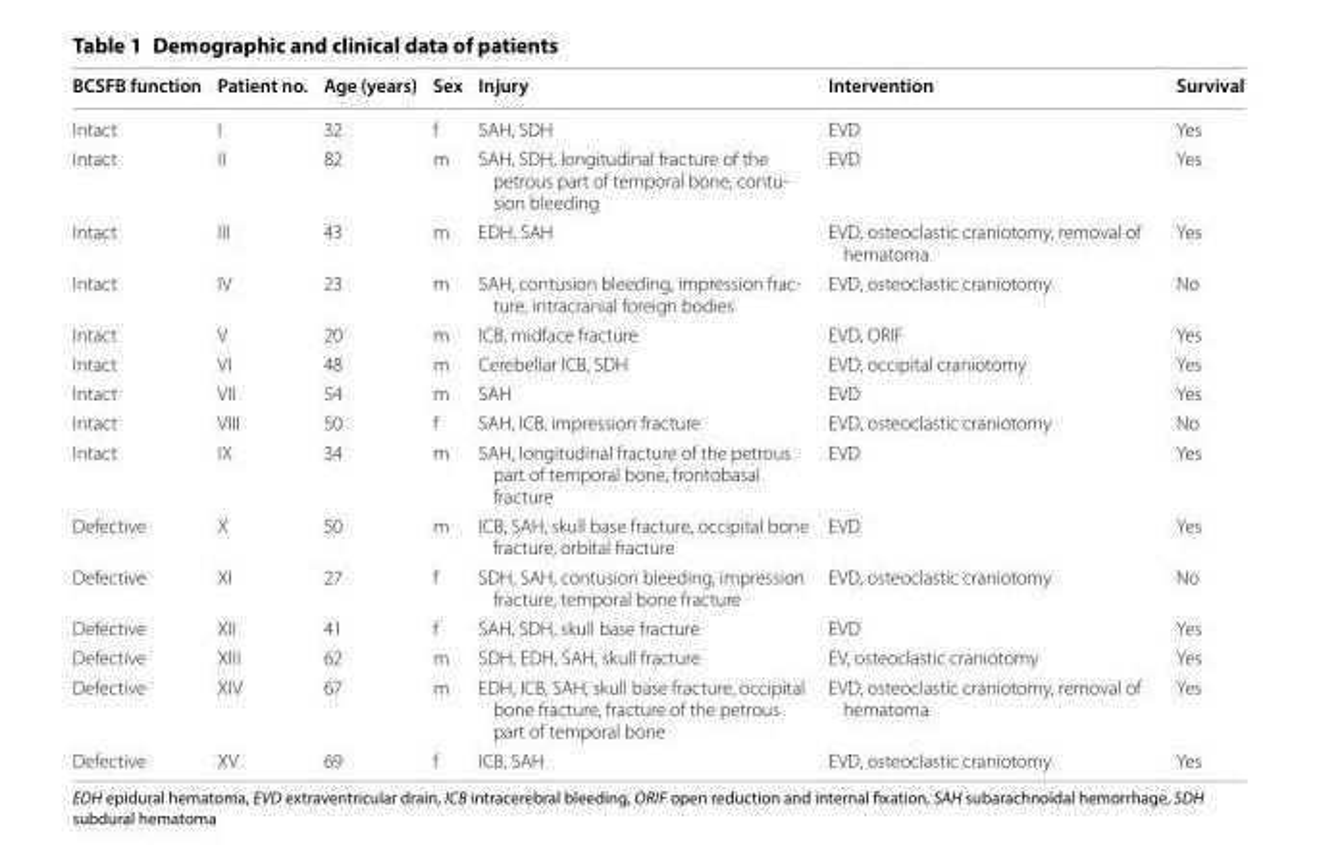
<table><thead><tr><td>BCSFB function</td><td>Patient no.</td><td>Age (years)</td><td>Sex</td><td>Injury</td><td>Intervention</td><td>Survival</td></tr></thead><tbody><tr><td>Intact</td><td>I</td><td>32</td><td>f</td><td>SAH, SDH</td><td>EVD</td><td>Yes</td></tr><tr><td>Intact</td><td>II</td><td>82</td><td>m</td><td>SAH, SDH, longitudinal fracture of the petrous part of temporal bone, contu- sion bleeding</td><td>EVD</td><td>Yes</td></tr><tr><td>Intact</td><td>III</td><td>43</td><td>m</td><td>EDH, SAH</td><td>EVD, osteoclastic craniotomy, removal of hematoma</td><td>Yes</td></tr><tr><td>Intact</td><td>IV</td><td>23</td><td>m</td><td>SAH, contusion bleeding, impression frac- ture, intracranial foreign bodies</td><td>EVD, osteoclastic craniotomy</td><td>No</td></tr><tr><td>Intact</td><td>V</td><td>20</td><td>m</td><td>ICB, midface fracture</td><td>EVD, ORIF</td><td>Yes</td></tr><tr><td>Intact</td><td>VI</td><td>48</td><td>m</td><td>Cerebellar ICB, SDH</td><td>EVD, occipital craniotomy</td><td>Yes</td></tr><tr><td>Intact</td><td>VII</td><td>54</td><td>m</td><td>SAH</td><td>EVD</td><td>Yes</td></tr><tr><td>Intact</td><td>VIII</td><td>50</td><td>f</td><td>SAH, ICB, impression fracture</td><td>EVD, osteoclastic craniotomy</td><td>No</td></tr><tr><td>Intact</td><td>IX</td><td>34</td><td>m</td><td>SAH, longitudinal fracture of the petrous part of temporal bone, frontobasal fracture</td><td>EVD</td><td>Yes</td></tr><tr><td>Defective</td><td>X</td><td>50</td><td>m</td><td>ICB, SAH, skull base fracture, occipital bone fracture, orbital fracture</td><td>EVD</td><td>Yes</td></tr><tr><td>Defective</td><td>XI</td><td>27</td><td>f</td><td>SDH, SAH, contusion bleeding, impression fracture, temporal bone fracture</td><td>EVD, osteoclastic craniotomy</td><td>No</td></tr><tr><td>Defective</td><td>XII</td><td>41</td><td>f</td><td>SAH, SDH, skull base fracture</td><td>EVD</td><td>Yes</td></tr><tr><td>Defective</td><td>XIII</td><td>62</td><td>m</td><td>SDH, EDH, SAH, skull fracture</td><td>EV, osteoclastic craniotomy</td><td>Yes</td></tr><tr><td>Defective</td><td>XIV</td><td>67</td><td>m</td><td>EDH, ICB, SAH, skull base fracture, occipital bone fracture, fracture of the petrous part of temporal bone</td><td>EVD, osteoclastic craniotomy, removal of hematoma</td><td>Yes</td></tr><tr><td>Defective</td><td>XV</td><td>69</td><td>f</td><td>ICB, SAH</td><td>EVD, osteoclastic craniotomy</td><td>Yes</td></tr></tbody></table>